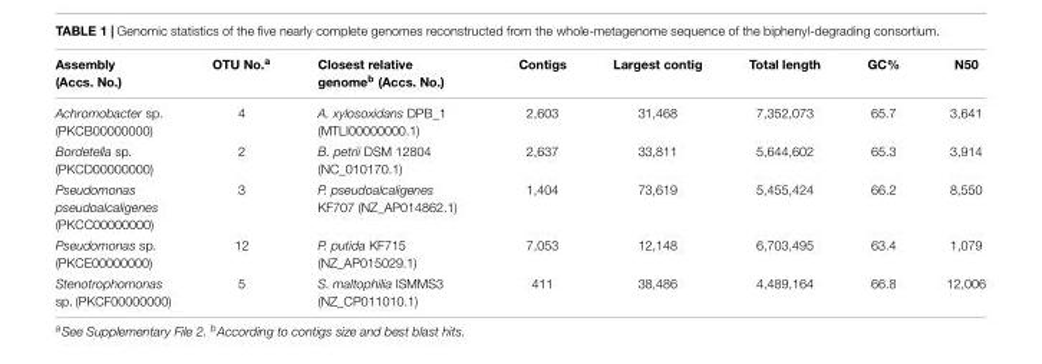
<table><thead><tr><td>Assembly (Accs. No.)</td><td>OTU No.<sup>a</sup></td><td>Closest relative genome<sup>b</sup> (Accs. No.)</td><td>Contigs</td><td>Largest contig</td><td>Total length</td><td>GC%</td><td>N50</td></tr></thead><tbody><tr><td>Achromobacter sp. (PKCB00000000)</td><td>4</td><td>A. xylosoxidans DPB_1 (MTLI00000000.1)</td><td>2,603</td><td>31,468</td><td>7,352,073</td><td>65.7</td><td>3,641</td></tr><tr><td>Bordetella sp. (PKCD00000000)</td><td>2</td><td>B. petrii DSM 12804 (NC_010170.1)</td><td>2,637</td><td>33,811</td><td>5,644,602</td><td>65.3</td><td>3,914</td></tr><tr><td>Pseudomonas pseudoalcaligenes (PKCC00000000)</td><td>3</td><td>P. pseudoalcaligenes KF707 (NZ_AP014862.1)</td><td>1,404</td><td>73,619</td><td>5,455,424</td><td>66.2</td><td>8,550</td></tr><tr><td>Pseudomonas sp. (PKCE00000000)</td><td>12</td><td>P. putida KF715 (NZ_AP015029.1)</td><td>7,053</td><td>12,148</td><td>6,703,495</td><td>63.4</td><td>1,079</td></tr><tr><td>Stenotrophomonas sp. (PKCF00000000)</td><td>5</td><td>S. maltophilia ISMMS3 (NZ_CP011010.1)</td><td>411</td><td>38,486</td><td>4,489,164</td><td>66.8</td><td>12,006</td></tr></tbody></table>